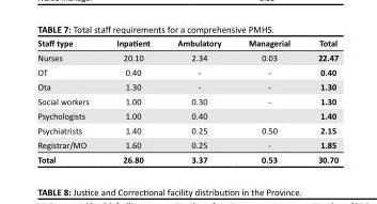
<table><thead><tr><td>Staff type</td><td>Inpatient</td><td>Ambulatory</td><td>Managerial</td><td>Total</td></tr></thead><tbody><tr><td>Nurses</td><td>20.10</td><td>2.34</td><td>0.03</td><td>22.47</td></tr><tr><td>OT</td><td>0.40</td><td>-</td><td>-</td><td>0.40</td></tr><tr><td>Ota</td><td>1.30</td><td>-</td><td>-</td><td>1.30</td></tr><tr><td>Social workers</td><td>1.00</td><td>0.30</td><td>-</td><td>1.30</td></tr><tr><td>Psychologists</td><td>1.00</td><td>0.40</td><td></td><td>1.40</td></tr><tr><td>Psychiatrists</td><td>1.40</td><td>0.25</td><td>0.50</td><td>2.15</td></tr><tr><td>Registrar/MO</td><td>1.60</td><td>0.25</td><td>-</td><td>1.85</td></tr><tr><td>Total</td><td>26.80</td><td>3.37</td><td>0.53</td><td>30.70</td></tr></tbody></table>